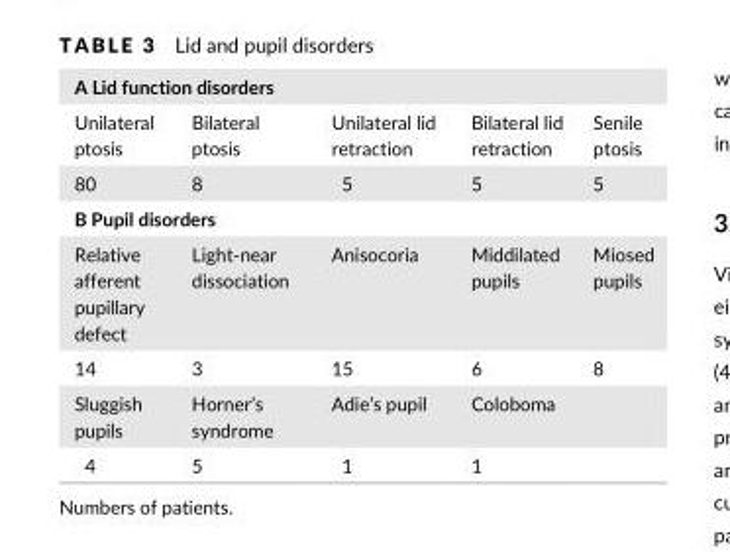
<table><tbody><tr><td colspan="5">A Lid function disorders</td></tr><tr><td>Unilateral ptosis</td><td>Bilateral ptosis</td><td>Unilateral lid retraction</td><td>Bilateral lid retraction</td><td>Senile ptosis</td></tr><tr><td>80</td><td>8</td><td>5</td><td>5</td><td>5</td></tr><tr><td colspan="5">B Pupil disorders</td></tr><tr><td>Relative afferent pupillary defect</td><td>Light- near dissociation</td><td>Anisocoria</td><td>Middilated pupils</td><td>Miosed pupils</td></tr><tr><td>14</td><td>3</td><td>15</td><td>6</td><td>8</td></tr><tr><td>Sluggish pupils</td><td>Horner’s syndrome</td><td>Adie’s pupil</td><td>Coloboma</td><td></td></tr><tr><td>4</td><td>5</td><td>1</td><td>1</td><td></td></tr></tbody></table>